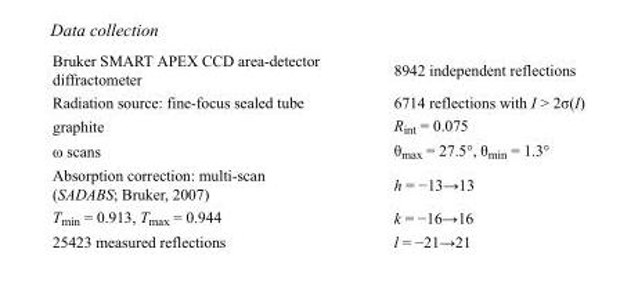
<table><tbody><tr><td>Bruker SMART APEX CCD area-detector diffractometer</td><td>8942 independent reflections</td></tr><tr><td>Radiation source: fine-focus sealed tube</td><td>6714 reflections with I &gt; 2σ(I)</td></tr><tr><td>graphite</td><td>R<sub>int</sub> = 0.075</td></tr><tr><td>ω scans</td><td>θ<sub>max</sub> = 27.5°, θ<sub>min</sub> = 1.3°</td></tr><tr><td>Absorption correction: multi-scan (SADABS; Bruker, 2007)</td><td>h = −13→13</td></tr><tr><td>T<sub>min</sub> = 0.913, T<sub>max</sub> = 0.944</td><td>k = −16→16</td></tr><tr><td>25423 measured reflections</td><td>l = −21→21</td></tr></tbody></table>